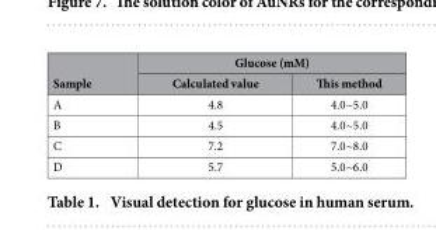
<table><thead><tr><td rowspan="2">Sample</td><td colspan="2">Glucose (mM)</td></tr><tr><td>Calculated value</td><td>This method</td></tr></thead><tbody><tr><td>A</td><td>4.8</td><td>4.0~5.0</td></tr><tr><td>B</td><td>4.5</td><td>4.0~5.0</td></tr><tr><td>C</td><td>7.2</td><td>7.0~8.0</td></tr><tr><td>D</td><td>5.7</td><td>5.0~6.0</td></tr></tbody></table>